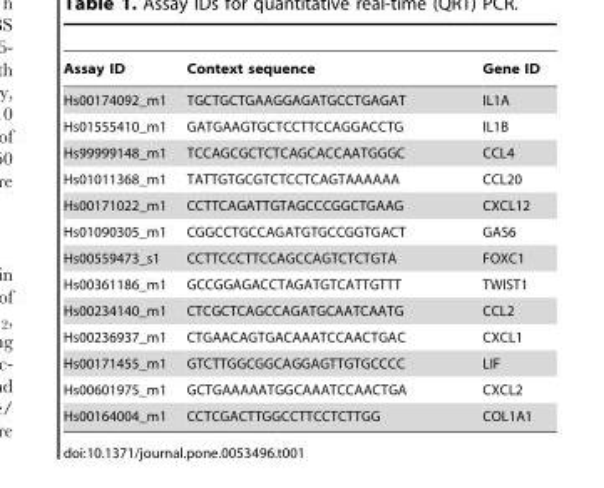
<table><thead><tr><td>Assay ID</td><td>Context sequence</td><td>Gene ID</td></tr></thead><tbody><tr><td>Hs00174092_m1</td><td>TGCTGCTGAAGGAGATGCCTGAGAT</td><td>IL1A</td></tr><tr><td>Hs01555410_m1</td><td>GATGAAGTGCTCCTTCCAGGACCTG</td><td>IL1B</td></tr><tr><td>Hs99999148_m1</td><td>TCCAGCGCTCTCAGCACCAATGGGC</td><td>CCL4</td></tr><tr><td>Hs01011368_m1</td><td>TATTGTGCGTCTCCTCAGTAAAAAA</td><td>CCL20</td></tr><tr><td>Hs00171022_m1</td><td>CCTTCAGATTGTAGCCCGGCTGAAG</td><td>CXCL12</td></tr><tr><td>Hs01090305_m1</td><td>CGGCCTGCCAGATGTGCCGGTGACT</td><td>GAS6</td></tr><tr><td>Hs00559473_s1</td><td>CCTTCCCTTCCAGCCAGTCTCTGTA</td><td>FOXC1</td></tr><tr><td>Hs00361186_m1</td><td>GCCGGAGACCTAGATGTCATTGTTT</td><td>TWIST1</td></tr><tr><td>Hs00234140_m1</td><td>CTCGCTCAGCCAGATGCAATCAATG</td><td>CCL2</td></tr><tr><td>Hs00236937_m1</td><td>CTGAACAGTGACAAATCCAACTGAC</td><td>CXCL1</td></tr><tr><td>Hs00171455_m1</td><td>GTCTTGGCGGCAGGAGTTGTGCCCC</td><td>LIF</td></tr><tr><td>Hs00601975_m1</td><td>GCTGAAAAATGGCAAATCCAACTGA</td><td>CXCL2</td></tr><tr><td>Hs00164004_m1</td><td>CCTCGACTTGGCCTTCCTCTTGG</td><td>COL1A1</td></tr></tbody></table>